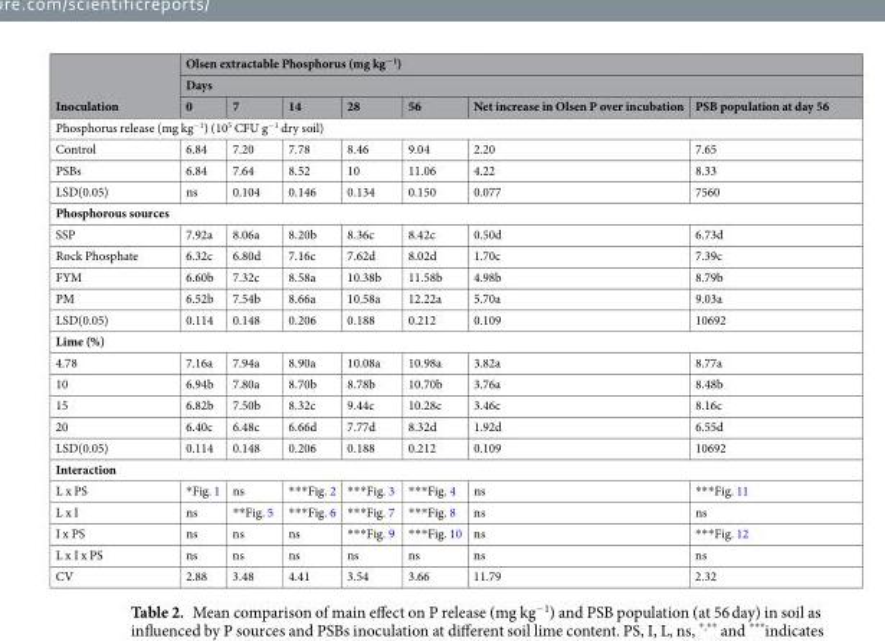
<table><thead><tr><td rowspan="3">Inoculation</td><td rowspan="2" colspan="7">Olsen extractable Phosphorus (mg kg<sup>−1</sup>) Days</td></tr><tr></tr><tr><td>0</td><td>7</td><td>14</td><td>28</td><td>56</td><td>Net increase in Olsen P over incubation</td><td>PSB population at day 56</td></tr></thead><tbody><tr><td colspan="8">Phosphorus release (mg kg<sup>−1</sup>) (10<sup>5</sup> CFU g<sup>−1</sup> dry soil)</td></tr><tr><td>Control</td><td>6.84</td><td>7.20</td><td>7.78</td><td>8.46</td><td>9.04</td><td>2.20</td><td>7.65</td></tr><tr><td>PSBs</td><td>6.84</td><td>7.64</td><td>8.52</td><td>10</td><td>11.06</td><td>4.22</td><td>8.33</td></tr><tr><td>LSD(0.05)</td><td>ns</td><td>0.104</td><td>0.146</td><td>0.134</td><td>0.150</td><td>0.077</td><td>7560</td></tr><tr><td colspan="8">Phosphorous sources</td></tr><tr><td>SSP</td><td>7.92a</td><td>8.06a</td><td>8.20b</td><td>8.36c</td><td>8.42c</td><td>0.50d</td><td>6.73d</td></tr><tr><td>Rock Phosphate</td><td>6.32c</td><td>6.80d</td><td>7.16c</td><td>7.62d</td><td>8.02d</td><td>1.70c</td><td>7.39c</td></tr><tr><td>FYM</td><td>6.60b</td><td>7.32c</td><td>8.58a</td><td>10.38b</td><td>11.58b</td><td>4.98b</td><td>8.79b</td></tr><tr><td>PM</td><td>6.52b</td><td>7.54b</td><td>8.66a</td><td>10.58a</td><td>12.22a</td><td>5.70a</td><td>9.03a</td></tr><tr><td>LSD(0.05)</td><td>0.114</td><td>0.148</td><td>0.206</td><td>0.188</td><td>0.212</td><td>0.109</td><td>10692</td></tr><tr><td colspan="8">Lime (%)</td></tr><tr><td>4.78</td><td>7.16a</td><td>7.94a</td><td>8.90a</td><td>10.08a</td><td>10.98a</td><td>3.82a</td><td>8.77a</td></tr><tr><td>10</td><td>6.94b</td><td>7.80a</td><td>8.70b</td><td>8.78b</td><td>10.70b</td><td>3.76a</td><td>8.48b</td></tr><tr><td>15</td><td>6.82b</td><td>7.50b</td><td>8.32c</td><td>9.44c</td><td>10.28c</td><td>3.46c</td><td>8.16c</td></tr><tr><td>20</td><td>6.40c</td><td>6.48c</td><td>6.66d</td><td>7.77d</td><td>8.32d</td><td>1.92d</td><td>6.55d</td></tr><tr><td>LSD(0.05)</td><td>0.114</td><td>0.148</td><td>0.206</td><td>0.188</td><td>0.212</td><td>0.109</td><td>10692</td></tr><tr><td colspan="8">Interaction</td></tr><tr><td>L x PS</td><td>*Fig. 1</td><td>ns</td><td>***Fig. 2</td><td>***Fig. 3</td><td>***Fig. 4</td><td>ns</td><td>***Fig. 11</td></tr><tr><td>L x I</td><td>ns</td><td>**Fig. 5</td><td>***Fig. 6</td><td>***Fig. 7</td><td>***Fig. 8</td><td>ns</td><td>ns</td></tr><tr><td>I x PS</td><td>ns</td><td>ns</td><td>ns</td><td>***Fig. 9</td><td>***Fig. 10</td><td>ns</td><td>***Fig. 12</td></tr><tr><td>L x I x PS</td><td>ns</td><td>ns</td><td>ns</td><td>ns</td><td>ns</td><td>ns</td><td>ns</td></tr><tr><td>CV</td><td>2.88</td><td>3.48</td><td>4.41</td><td>3.54</td><td>3.66</td><td>11.79</td><td>2.32</td></tr></tbody></table>